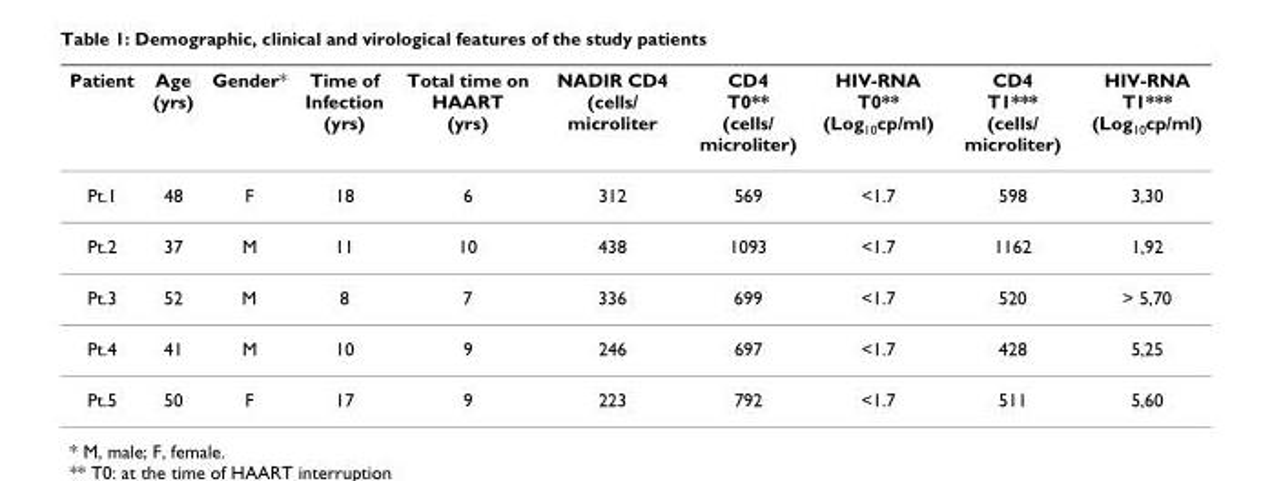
<table><thead><tr><td>Patient</td><td>Age (yrs)</td><td>Gender*</td><td>Time of Infection (yrs)</td><td>Total time on HAART (yrs)</td><td>NADIR CD4 (cells/ microliter</td><td>CD4 T0** (cells/ microliter)</td><td>HIV-RNA T0** (Log<sub>10</sub>cp/ml)</td><td>CD4 T1*** (cells/ microliter)</td><td>HIV-RNA T1*** (Log<sub>10</sub>cp/ml)</td></tr></thead><tbody><tr><td>Pt.1</td><td>48</td><td>F</td><td>18</td><td>6</td><td>312</td><td>569</td><td>&lt;1.7</td><td>598</td><td>3,30</td></tr><tr><td>Pt.2</td><td>37</td><td>M</td><td>11</td><td>10</td><td>438</td><td>1093</td><td>&lt;1.7</td><td>1162</td><td>1,92</td></tr><tr><td>Pt.3</td><td>52</td><td>M</td><td>8</td><td>7</td><td>336</td><td>699</td><td>&lt;1.7</td><td>520</td><td>&gt; 5,70</td></tr><tr><td>Pt.4</td><td>41</td><td>M</td><td>10</td><td>9</td><td>246</td><td>697</td><td>&lt;1.7</td><td>428</td><td>5,25</td></tr><tr><td>Pt.5</td><td>50</td><td>F</td><td>17</td><td>9</td><td>223</td><td>792</td><td>&lt;1.7</td><td>511</td><td>5,60</td></tr></tbody></table>